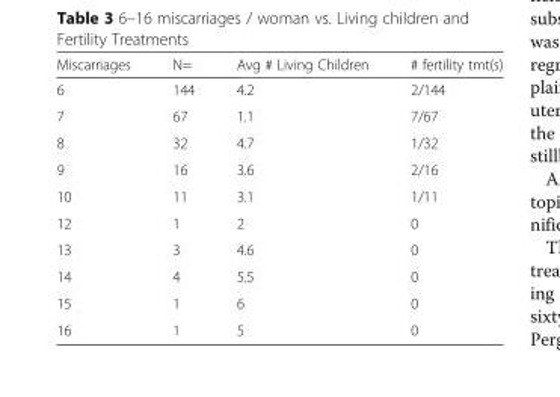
<table><thead><tr><td>Miscarriages</td><td>N=</td><td>Avg # Living Children</td><td># fertility tmt(s)</td></tr></thead><tbody><tr><td>6</td><td>144</td><td>4.2</td><td>2/144</td></tr><tr><td>7</td><td>67</td><td>1.1</td><td>7/67</td></tr><tr><td>8</td><td>32</td><td>4.7</td><td>1/32</td></tr><tr><td>9</td><td>16</td><td>3.6</td><td>2/16</td></tr><tr><td>10</td><td>11</td><td>3.1</td><td>1/11</td></tr><tr><td>12</td><td>1</td><td>2</td><td>0</td></tr><tr><td>13</td><td>3</td><td>4.6</td><td>0</td></tr><tr><td>14</td><td>4</td><td>5.5</td><td>0</td></tr><tr><td>15</td><td>1</td><td>6</td><td>0</td></tr><tr><td>16</td><td>1</td><td>5</td><td>0</td></tr></tbody></table>